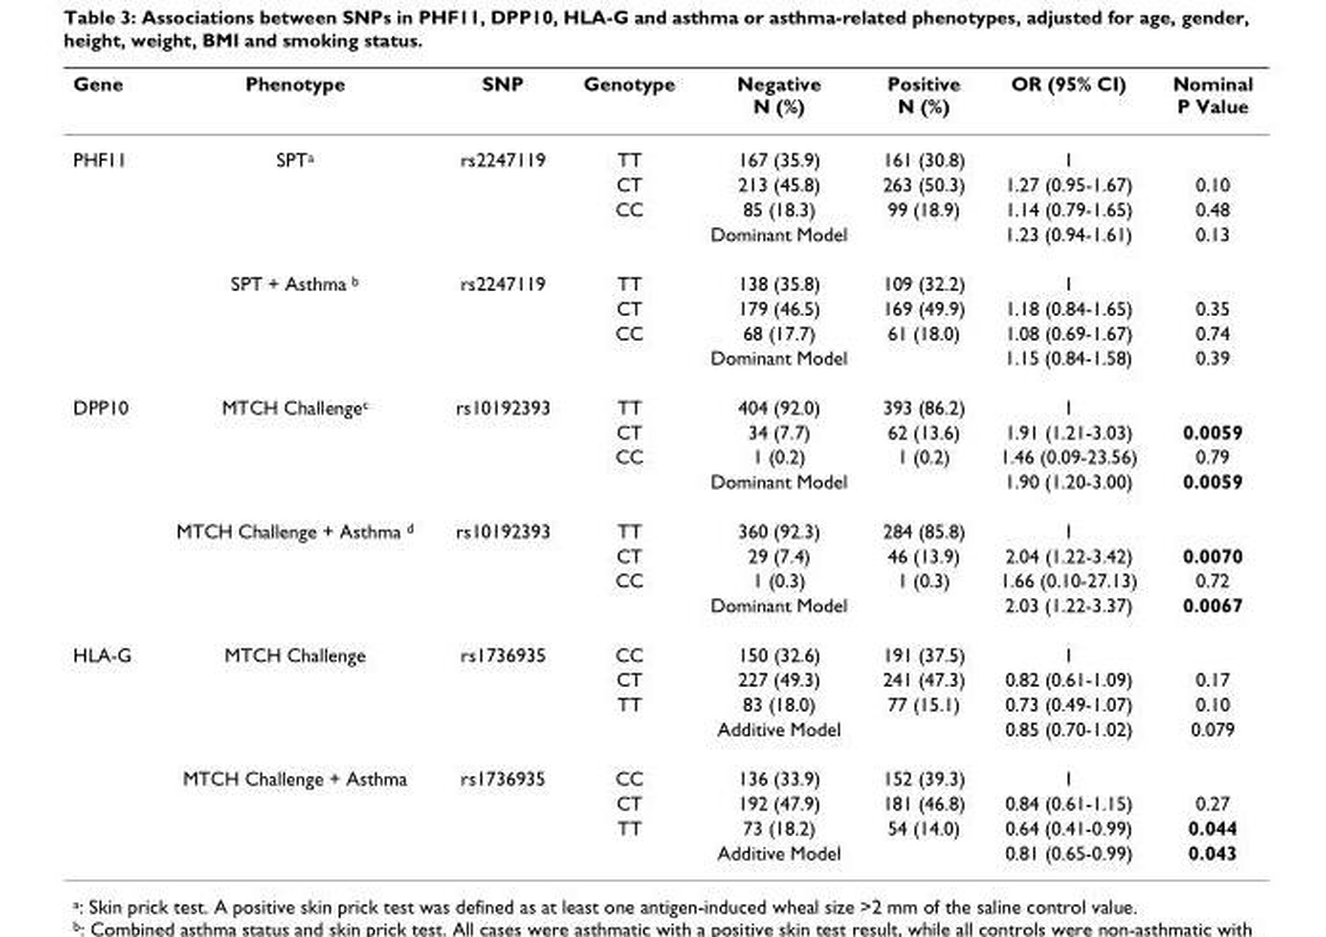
<table><thead><tr><td>Gene</td><td>Phenotype</td><td>SNP</td><td>Genotype</td><td>Negative N (%)</td><td>Positive N (%)</td><td>OR (95% CI)</td><td>Nominal P Value</td></tr></thead><tbody><tr><td rowspan="8">PHF11</td><td>SPT<sup>a</sup></td><td>rs2247119</td><td>TT</td><td>167 (35.9)</td><td>161 (30.8)</td><td>1</td><td></td></tr><tr><td></td><td></td><td>CT</td><td>213 (45.8)</td><td>263 (50.3)</td><td>1.27 (0.95-1.67)</td><td>0.10</td></tr><tr><td></td><td></td><td>CC</td><td>85 (18.3)</td><td>99 (18.9)</td><td>1.14 (0.79-1.65)</td><td>0.48</td></tr><tr><td></td><td></td><td></td><td>Dominant Model</td><td></td><td>1.23 (0.94-1.61)</td><td>0.13</td></tr><tr><td>SPT + Asthma <sup>b</sup></td><td>rs2247119</td><td>TT</td><td>138 (35.8)</td><td>109 (32.2)</td><td>1</td><td></td></tr><tr><td></td><td></td><td>CT</td><td>179 (46.5)</td><td>169 (49.9)</td><td>1.18 (0.84-1.65)</td><td>0.35</td></tr><tr><td></td><td></td><td>CC</td><td>68 (17.7)</td><td>61 (18.0)</td><td>1.08 (0.69-1.67)</td><td>0.74</td></tr><tr><td></td><td></td><td></td><td>Dominant Model</td><td></td><td>1.15 (0.84-1.58)</td><td>0.39</td></tr><tr><td rowspan="8">DPP10</td><td>MTCH Challenge<sup>c</sup></td><td>rs10192393</td><td>TT</td><td>404 (92.0)</td><td>393 (86.2)</td><td>1</td><td></td></tr><tr><td></td><td></td><td>CT</td><td>34 (7.7)</td><td>62 (13.6)</td><td>1.91 (1.21-3.03)</td><td>0.0059</td></tr><tr><td></td><td></td><td>CC</td><td>1 (0.2)</td><td>1 (0.2)</td><td>1.46 (0.09-23.56)</td><td>0.79</td></tr><tr><td></td><td></td><td></td><td>Dominant Model</td><td></td><td>1.90 (1.20-3.00)</td><td>0.0059</td></tr><tr><td>MTCH Challenge + Asthma <sup>d</sup></td><td>rs10192393</td><td>TT</td><td>360 (92.3)</td><td>284 (85.8)</td><td>1</td><td></td></tr><tr><td></td><td></td><td>CT</td><td>29 (7.4)</td><td>46 (13.9)</td><td>2.04 (1.22-3.42)</td><td>0.0070</td></tr><tr><td></td><td></td><td>CC</td><td>1 (0.3)</td><td>1 (0.3)</td><td>1.66 (0.10-27.13)</td><td>0.72</td></tr><tr><td></td><td></td><td></td><td>Dominant Model</td><td></td><td>2.03 (1.22-3.37)</td><td>0.0067</td></tr><tr><td rowspan="8">HLA-G</td><td>MTCH Challenge</td><td>rs1736935</td><td>CC</td><td>150 (32.6)</td><td>191 (37.5)</td><td>1</td><td></td></tr><tr><td></td><td></td><td>CT</td><td>227 (49.3)</td><td>241 (47.3)</td><td>0.82 (0.61-1.09)</td><td>0.17</td></tr><tr><td></td><td></td><td>TT</td><td>83 (18.0)</td><td>77 (15.1)</td><td>0.73 (0.49-1.07)</td><td>0.10</td></tr><tr><td></td><td></td><td></td><td>Additive Model</td><td></td><td>0.85 (0.70-1.02)</td><td>0.079</td></tr><tr><td>MTCH Challenge + Asthma</td><td>rs1736935</td><td>CC</td><td>136 (33.9)</td><td>152 (39.3)</td><td>1</td><td></td></tr><tr><td></td><td></td><td>CT</td><td>192 (47.9)</td><td>181 (46.8)</td><td>0.84 (0.61-1.15)</td><td>0.27</td></tr><tr><td></td><td></td><td>TT</td><td>73 (18.2)</td><td>54 (14.0)</td><td>0.64 (0.41-0.99)</td><td>0.044</td></tr><tr><td></td><td></td><td></td><td>Additive Model</td><td></td><td>0.81 (0.65-0.99)</td><td>0.043</td></tr></tbody></table>